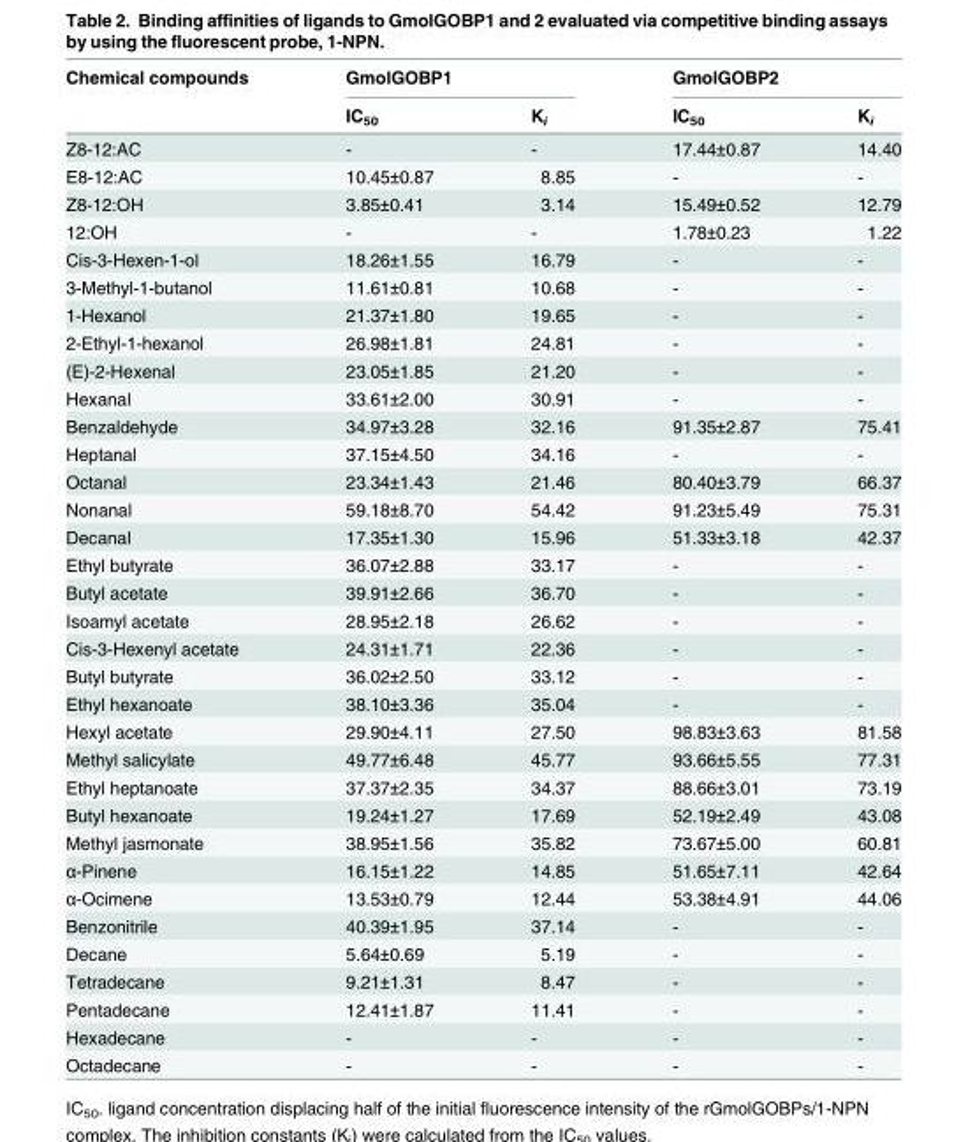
<table><thead><tr><td rowspan="2">Chemical compounds</td><td colspan="2">GmolGOBP1</td><td colspan="2">GmolGOBP2</td></tr><tr><td>IC<sub>50</sub></td><td>K<sub>i</sub></td><td>IC<sub>50</sub></td><td>K<sub>i</sub></td></tr></thead><tbody><tr><td>Z8-12:AC</td><td>-</td><td>-</td><td>17.44±0.87</td><td>14.40</td></tr><tr><td>E8-12:AC</td><td>10.45±0.87</td><td>8.85</td><td>-</td><td>-</td></tr><tr><td>Z8-12:OH</td><td>3.85±0.41</td><td>3.14</td><td>15.49±0.52</td><td>12.79</td></tr><tr><td>12:OH</td><td>-</td><td>-</td><td>1.78±0.23</td><td>1.22</td></tr><tr><td>Cis-3-Hexen-1-ol</td><td>18.26±1.55</td><td>16.79</td><td>-</td><td>-</td></tr><tr><td>3-Methyl-1-butanol</td><td>11.61±0.81</td><td>10.68</td><td>-</td><td>-</td></tr><tr><td>1-Hexanol</td><td>21.37±1.80</td><td>19.65</td><td>-</td><td>-</td></tr><tr><td>2-Ethyl-1-hexanol</td><td>26.98±1.81</td><td>24.81</td><td>-</td><td>-</td></tr><tr><td>(E)-2-Hexenal</td><td>23.05±1.85</td><td>21.20</td><td>-</td><td>-</td></tr><tr><td>Hexanal</td><td>33.61±2.00</td><td>30.91</td><td>-</td><td>-</td></tr><tr><td>Benzaldehyde</td><td>34.97±3.28</td><td>32.16</td><td>91.35±2.87</td><td>75.41</td></tr><tr><td>Heptanal</td><td>37.15±4.50</td><td>34.16</td><td>-</td><td>-</td></tr><tr><td>Octanal</td><td>23.34±1.43</td><td>21.46</td><td>80.40±3.79</td><td>66.37</td></tr><tr><td>Nonanal</td><td>59.18±8.70</td><td>54.42</td><td>91.23±5.49</td><td>75.31</td></tr><tr><td>Decanal</td><td>17.35±1.30</td><td>15.96</td><td>51.33±3.18</td><td>42.37</td></tr><tr><td>Ethyl butyrate</td><td>36.07±2.88</td><td>33.17</td><td>-</td><td>-</td></tr><tr><td>Butyl acetate</td><td>39.91±2.66</td><td>36.70</td><td>-</td><td>-</td></tr><tr><td>Isoamyl acetate</td><td>28.95±2.18</td><td>26.62</td><td>-</td><td>-</td></tr><tr><td>Cis-3-Hexenyl acetate</td><td>24.31±1.71</td><td>22.36</td><td>-</td><td>-</td></tr><tr><td>Butyl butyrate</td><td>36.02±2.50</td><td>33.12</td><td>-</td><td>-</td></tr><tr><td>Ethyl hexanoate</td><td>38.10±3.36</td><td>35.04</td><td>-</td><td>-</td></tr><tr><td>Hexyl acetate</td><td>29.90±4.11</td><td>27.50</td><td>98.83±3.63</td><td>81.58</td></tr><tr><td>Methyl salicylate</td><td>49.77±6.48</td><td>45.77</td><td>93.66±5.55</td><td>77.31</td></tr><tr><td>Ethyl heptanoate</td><td>37.37±2.35</td><td>34.37</td><td>88.66±3.01</td><td>73.19</td></tr><tr><td>Butyl hexanoate</td><td>19.24±1.27</td><td>17.69</td><td>52.19±2.49</td><td>43.08</td></tr><tr><td>Methyl jasmonate</td><td>38.95±1.56</td><td>35.82</td><td>73.67±5.00</td><td>60.81</td></tr><tr><td>α-Pinene</td><td>16.15±1.22</td><td>14.85</td><td>51.65±7.11</td><td>42.64</td></tr><tr><td>α-Ocimene</td><td>13.53±0.79</td><td>12.44</td><td>53.38±4.91</td><td>44.06</td></tr><tr><td>Benzonitrile</td><td>40.39±1.95</td><td>37.14</td><td>-</td><td>-</td></tr><tr><td>Decane</td><td>5.64±0.69</td><td>5.19</td><td>-</td><td>-</td></tr><tr><td>Tetradecane</td><td>9.21±1.31</td><td>8.47</td><td>-</td><td>-</td></tr><tr><td>Pentadecane</td><td>12.41±1.87</td><td>11.41</td><td>-</td><td>-</td></tr><tr><td>Hexadecane</td><td>-</td><td>-</td><td>-</td><td>-</td></tr><tr><td>Octadecane</td><td>-</td><td>-</td><td>-</td><td>-</td></tr></tbody></table>